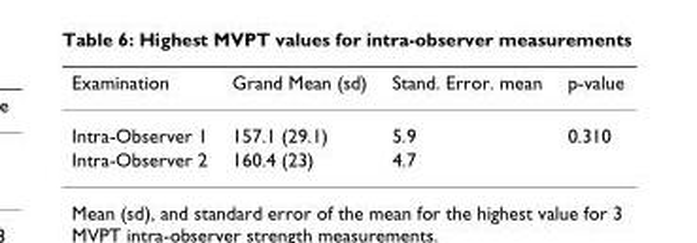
<table><thead><tr><td>Examination</td><td>Grand Mean (sd)</td><td>Stand. Error. mean</td><td>p-value</td></tr></thead><tbody><tr><td>Intra-Observer 1</td><td>157.1 (29.1)</td><td>5.9</td><td>0.310</td></tr><tr><td>Intra-Observer 2</td><td>160.4 (23)</td><td>4.7</td><td></td></tr></tbody></table>